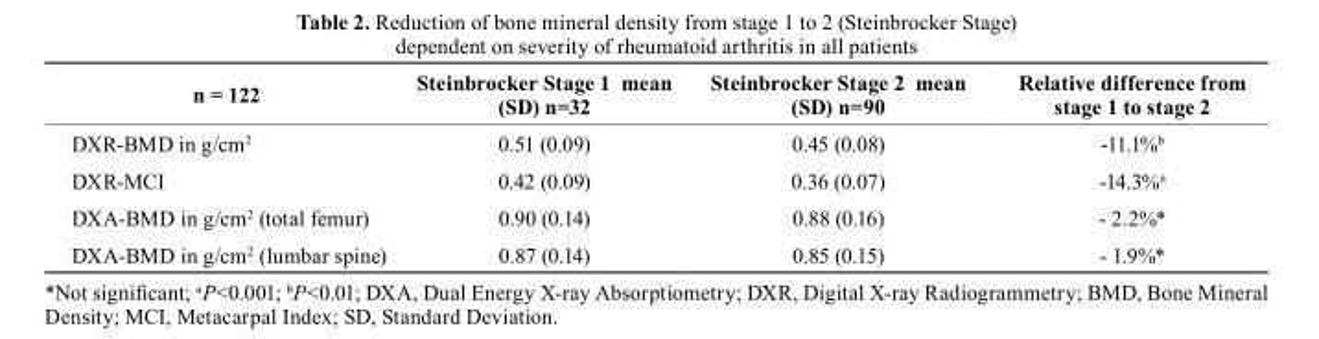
<table><thead><tr><td>n = 122</td><td>steinbrocker stage 1 mean (sD) n=32</td><td>steinbrocker stage 2 mean (sD) n=90</td><td>relative difference from stage 1 to stage 2</td></tr></thead><tbody><tr><td>DXR-BMD in g/cm<sup>2</sup></td><td>0.51 (0.09)</td><td>0.45 (0.08)</td><td>-11.1%<sup>b</sup></td></tr><tr><td>DXR-MCI</td><td>0.42 (0.09)</td><td>0.36 (0.07)</td><td>-14.3%<sup>a</sup></td></tr><tr><td>DXA-BMD in g/cm<sup>2</sup> (total femur)</td><td>0.90 (0.14)</td><td>0.88 (0.16)</td><td>- 2.2%*</td></tr><tr><td>DXA-BMD in g/cm<sup>2</sup> (lumbar spine)</td><td>0.87 (0.14)</td><td>0.85 (0.15)</td><td>- 1.9%*</td></tr></tbody></table>